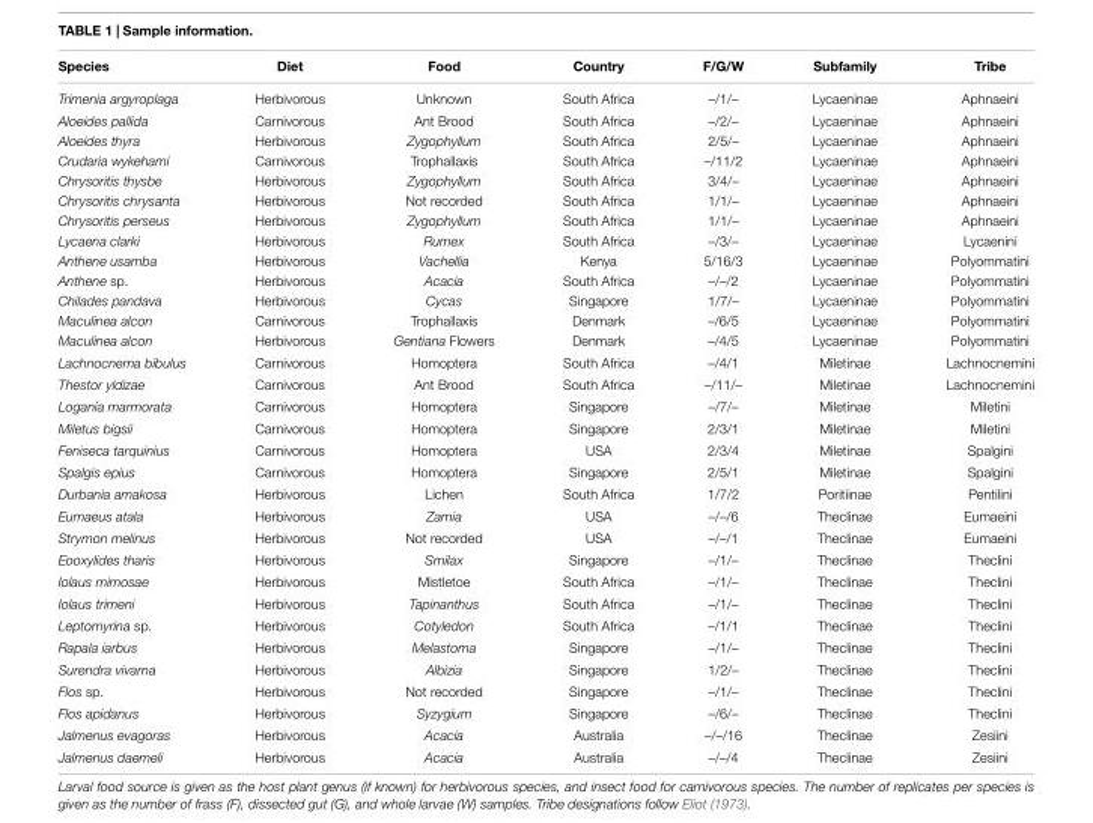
<table><thead><tr><td>Species</td><td>Diet</td><td>Food</td><td>Country</td><td>F/G/W</td><td>Subfamily</td><td>Tribe</td></tr></thead><tbody><tr><td>Trimenia argyroplaga</td><td>Herbivorous</td><td>Unknown</td><td>South Africa</td><td>–/1/–</td><td>Lycaeninae</td><td>Aphnaeini</td></tr><tr><td>Aloeides pallida</td><td>Carnivorous</td><td>Ant Brood</td><td>South Africa</td><td>–/2/–</td><td>Lycaeninae</td><td>Aphnaeini</td></tr><tr><td>Aloeides thyra</td><td>Herbivorous</td><td>Zygophyllum</td><td>South Africa</td><td>2/5/–</td><td>Lycaeninae</td><td>Aphnaeini</td></tr><tr><td>Crudaria wykehami</td><td>Carnivorous</td><td>Trophallaxis</td><td>South Africa</td><td>–/11/2</td><td>Lycaeninae</td><td>Aphnaeini</td></tr><tr><td>Chrysoritis thysbe</td><td>Herbivorous</td><td>Zygophyllum</td><td>South Africa</td><td>3/4/–</td><td>Lycaeninae</td><td>Aphnaeini</td></tr><tr><td>Chrysoritis chrysanta</td><td>Herbivorous</td><td>Not recorded</td><td>South Africa</td><td>1/1/–</td><td>Lycaeninae</td><td>Aphnaeini</td></tr><tr><td>Chrysoritis perseus</td><td>Herbivorous</td><td>Zygophyllum</td><td>South Africa</td><td>1/1/–</td><td>Lycaeninae</td><td>Aphnaeini</td></tr><tr><td>Lycaena clarki</td><td>Herbivorous</td><td>Rumex</td><td>South Africa</td><td>–/3/–</td><td>Lycaeninae</td><td>Lycaenini</td></tr><tr><td>Anthene usamba</td><td>Herbivorous</td><td>Vachellia</td><td>Kenya</td><td>5/16/3</td><td>Lycaeninae</td><td>Polyommatini</td></tr><tr><td>Anthene sp.</td><td>Herbivorous</td><td>Acacia</td><td>South Africa</td><td>–/–/2</td><td>Lycaeninae</td><td>Polyommatini</td></tr><tr><td>Chilades pandava</td><td>Herbivorous</td><td>Cycas</td><td>Singapore</td><td>1/7/–</td><td>Lycaeninae</td><td>Polyommatini</td></tr><tr><td>Maculinea alcon</td><td>Carnivorous</td><td>Trophallaxis</td><td>Denmark</td><td>–/6/5</td><td>Lycaeninae</td><td>Polyommatini</td></tr><tr><td>Maculinea alcon</td><td>Herbivorous</td><td>Gentiana Flowers</td><td>Denmark</td><td>–/4/5</td><td>Lycaeninae</td><td>Polyommatini</td></tr><tr><td>Lachnocnema bibulus</td><td>Carnivorous</td><td>Homoptera</td><td>South Africa</td><td>–/4/1</td><td>Miletinae</td><td>Lachnocnemini</td></tr><tr><td>Thestor yldizae</td><td>Carnivorous</td><td>Ant Brood</td><td>South Africa</td><td>–/11/–</td><td>Miletinae</td><td>Lachnocnemini</td></tr><tr><td>Logania marmorata</td><td>Carnivorous</td><td>Homoptera</td><td>Singapore</td><td>–/7/–</td><td>Miletinae</td><td>Miletini</td></tr><tr><td>Miletus bigsii</td><td>Carnivorous</td><td>Homoptera</td><td>Singapore</td><td>2/3/1</td><td>Miletinae</td><td>Miletini</td></tr><tr><td>Feniseca tarquinius</td><td>Carnivorous</td><td>Homoptera</td><td>USA</td><td>2/3/4</td><td>Miletinae</td><td>Spalgini</td></tr><tr><td>Spalgis epius</td><td>Carnivorous</td><td>Homoptera</td><td>Singapore</td><td>2/5/1</td><td>Miletinae</td><td>Spalgini</td></tr><tr><td>Durbania amakosa</td><td>Herbivorous</td><td>Lichen</td><td>South Africa</td><td>1/7/2</td><td>Poritiinae</td><td>Pentilini</td></tr><tr><td>Eumaeus atala</td><td>Herbivorous</td><td>Zamia</td><td>USA</td><td>–/–/6</td><td>Theclinae</td><td>Eumaeini</td></tr><tr><td>Strymon melinus</td><td>Herbivorous</td><td>Not recorded</td><td>USA</td><td>–/–/1</td><td>Theclinae</td><td>Eumaeini</td></tr><tr><td>Eooxylides tharis</td><td>Herbivorous</td><td>Smilax</td><td>Singapore</td><td>–/1/–</td><td>Theclinae</td><td>Theclini</td></tr><tr><td>Iolaus mimosae</td><td>Herbivorous</td><td>Mistletoe</td><td>South Africa</td><td>–/1/–</td><td>Theclinae</td><td>Theclini</td></tr><tr><td>Iolaus trimeni</td><td>Herbivorous</td><td>Tapinanthus</td><td>South Africa</td><td>–/1/–</td><td>Theclinae</td><td>Theclini</td></tr><tr><td>Leptomyrina sp.</td><td>Herbivorous</td><td>Cotyledon</td><td>South Africa</td><td>–/1/1</td><td>Theclinae</td><td>Theclini</td></tr><tr><td>Rapala iarbus</td><td>Herbivorous</td><td>Melastoma</td><td>Singapore</td><td>–/1/–</td><td>Theclinae</td><td>Theclini</td></tr><tr><td>Surendra vivarna</td><td>Herbivorous</td><td>Albizia</td><td>Singapore</td><td>1/2/–</td><td>Theclinae</td><td>Theclini</td></tr><tr><td>Flos sp.</td><td>Herbivorous</td><td>Not recorded</td><td>Singapore</td><td>–/1/–</td><td>Theclinae</td><td>Theclini</td></tr><tr><td>Flos apidanus</td><td>Herbivorous</td><td>Syzygium</td><td>Singapore</td><td>–/6/–</td><td>Theclinae</td><td>Theclini</td></tr><tr><td>Jalmenus evagoras</td><td>Herbivorous</td><td>Acacia</td><td>Australia</td><td>–/–/16</td><td>Theclinae</td><td>Zesiini</td></tr><tr><td>Jalmenus daemeli</td><td>Herbivorous</td><td>Acacia</td><td>Australia</td><td>–/–/4</td><td>Theclinae</td><td>Zesiini</td></tr></tbody></table>